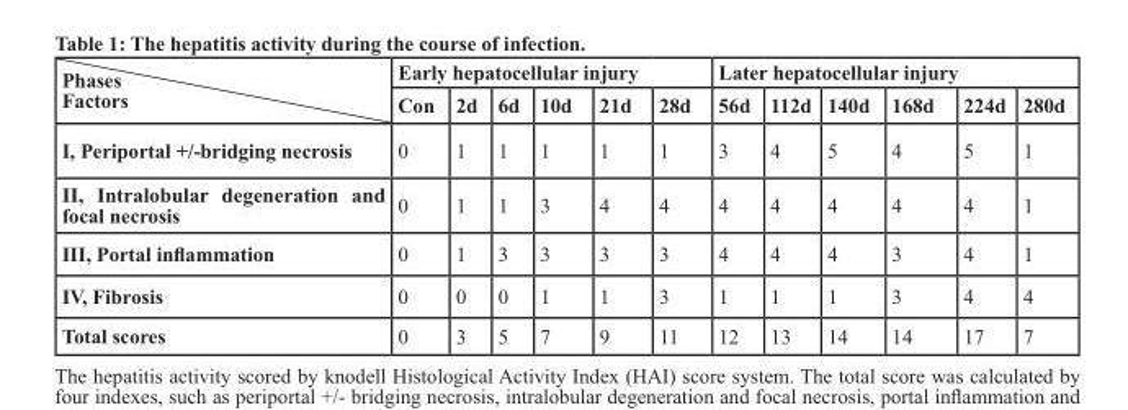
<table><thead><tr><td rowspan="2">Phases Factors</td><td colspan="6">Early hepatocellular injury</td><td colspan="6">Later hepatocellular injury</td></tr><tr><td>Con</td><td>2d</td><td>6d</td><td>10d</td><td>21d</td><td>28d</td><td>56d</td><td>112d</td><td>140d</td><td>168d</td><td>224d</td><td>280d</td></tr></thead><tbody><tr><td>I, Periportal +/-bridging necrosis</td><td>0</td><td>1</td><td>1</td><td>1</td><td>1</td><td>1</td><td>3</td><td>4</td><td>5</td><td>4</td><td>5</td><td>1</td></tr><tr><td>II, Intralobular degeneration and focal necrosis</td><td>0</td><td>1</td><td>1</td><td>3</td><td>4</td><td>4</td><td>4</td><td>4</td><td>4</td><td>4</td><td>4</td><td>1</td></tr><tr><td>III, Portal inflammation</td><td>0</td><td>1</td><td>3</td><td>3</td><td>3</td><td>3</td><td>4</td><td>4</td><td>4</td><td>3</td><td>4</td><td>1</td></tr><tr><td>IV, Fibrosis</td><td>0</td><td>0</td><td>0</td><td>1</td><td>1</td><td>3</td><td>1</td><td>1</td><td>1</td><td>3</td><td>4</td><td>4</td></tr><tr><td>Total scores</td><td>0</td><td>3</td><td>5</td><td>7</td><td>9</td><td>11</td><td>12</td><td>13</td><td>14</td><td>14</td><td>17</td><td>7</td></tr></tbody></table>